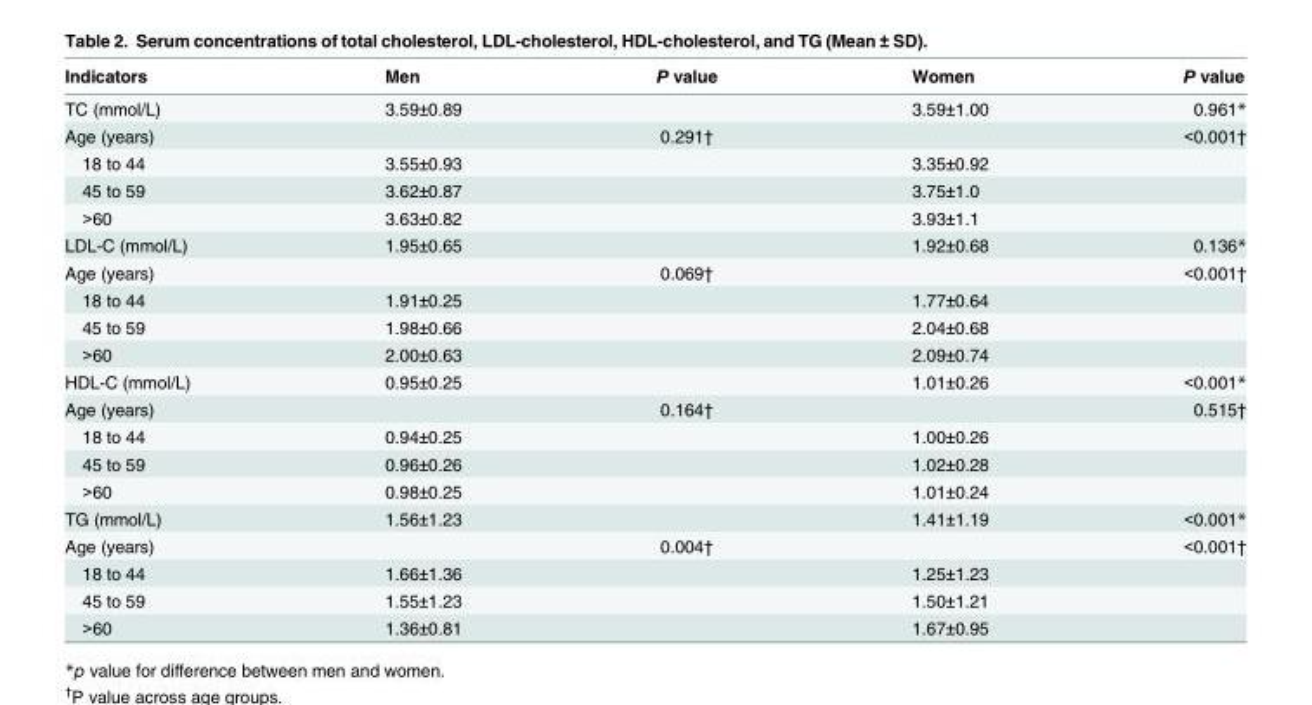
<table><thead><tr><td>Indicators</td><td>Men</td><td>P value</td><td>Women</td><td>P value</td></tr></thead><tbody><tr><td>TC (mmol/L)</td><td>3.59±0.89</td><td></td><td>3.59±1.00</td><td>0.961*</td></tr><tr><td>Age (years)</td><td></td><td>0.291†</td><td></td><td>&lt;0.001†</td></tr><tr><td>18 to 44</td><td>3.55±0.93</td><td></td><td>3.35±0.92</td><td></td></tr><tr><td>45 to 59</td><td>3.62±0.87</td><td></td><td>3.75±1.0</td><td></td></tr><tr><td>&gt;60</td><td>3.63±0.82</td><td></td><td>3.93±1.1</td><td></td></tr><tr><td>LDL-C (mmol/L)</td><td>1.95±0.65</td><td></td><td>1.92±0.68</td><td>0.136*</td></tr><tr><td>Age (years)</td><td></td><td>0.069†</td><td></td><td>&lt;0.001†</td></tr><tr><td>18 to 44</td><td>1.91±0.25</td><td></td><td>1.77±0.64</td><td></td></tr><tr><td>45 to 59</td><td>1.98±0.66</td><td></td><td>2.04±0.68</td><td></td></tr><tr><td>&gt;60</td><td>2.00±0.63</td><td></td><td>2.09±0.74</td><td></td></tr><tr><td>HDL-C (mmol/L)</td><td>0.95±0.25</td><td></td><td>1.01±0.26</td><td>&lt;0.001*</td></tr><tr><td>Age (years)</td><td></td><td>0.164†</td><td></td><td>0.515†</td></tr><tr><td>18 to 44</td><td>0.94±0.25</td><td></td><td>1.00±0.26</td><td></td></tr><tr><td>45 to 59</td><td>0.96±0.26</td><td></td><td>1.02±0.28</td><td></td></tr><tr><td>&gt;60</td><td>0.98±0.25</td><td></td><td>1.01±0.24</td><td></td></tr><tr><td>TG (mmol/L)</td><td>1.56±1.23</td><td></td><td>1.41±1.19</td><td>&lt;0.001*</td></tr><tr><td>Age (years)</td><td></td><td>0.004†</td><td></td><td>&lt;0.001†</td></tr><tr><td>18 to 44</td><td>1.66±1.36</td><td></td><td>1.25±1.23</td><td></td></tr><tr><td>45 to 59</td><td>1.55±1.23</td><td></td><td>1.50±1.21</td><td></td></tr><tr><td>&gt;60</td><td>1.36±0.81</td><td></td><td>1.67±0.95</td><td></td></tr></tbody></table>